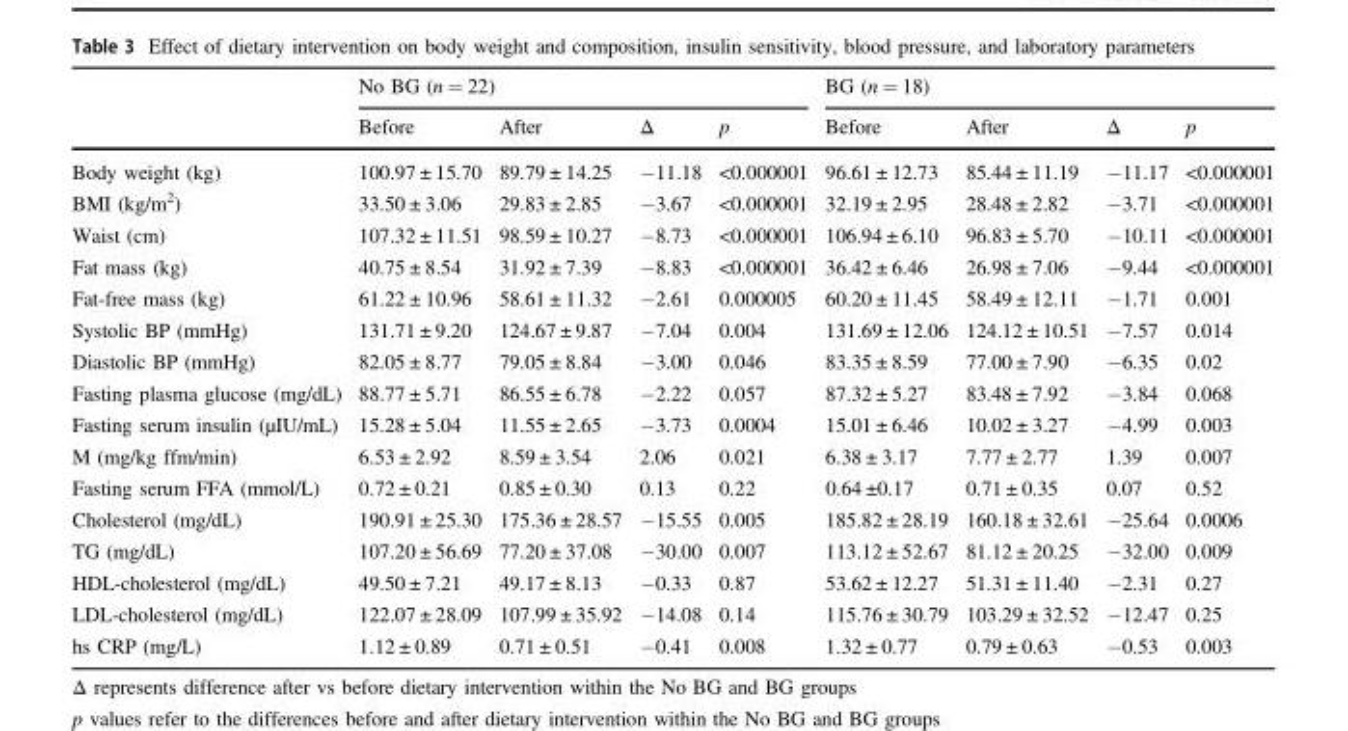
<table><thead><tr><td rowspan="2"></td><td colspan="4">No BG (n = 22)</td><td colspan="4">BG (n = 18)</td></tr><tr><td>Before</td><td>After</td><td>Δ</td><td>p</td><td>Before</td><td>After</td><td>Δ</td><td>p</td></tr></thead><tbody><tr><td>Body weight (kg)</td><td>100.97 ± 15.70</td><td>89.79 ± 14.25</td><td>−11.18</td><td>&lt;0.000001</td><td>96.61 ± 12.73</td><td>85.44 ± 11.19</td><td>−11.17</td><td>&lt;0.000001</td></tr><tr><td>BMI (kg/m<sup>2</sup>)</td><td>33.50 ± 3.06</td><td>29.83 ± 2.85</td><td>−3.67</td><td>&lt;0.000001</td><td>32.19 ± 2.95</td><td>28.48 ± 2.82</td><td>−3.71</td><td>&lt;0.000001</td></tr><tr><td>Waist (cm)</td><td>107.32 ± 11.51</td><td>98.59 ± 10.27</td><td>−8.73</td><td>&lt;0.000001</td><td>106.94 ± 6.10</td><td>96.83 ± 5.70</td><td>−10.11</td><td>&lt;0.000001</td></tr><tr><td>Fat mass (kg)</td><td>40.75 ± 8.54</td><td>31.92 ± 7.39</td><td>−8.83</td><td>&lt;0.000001</td><td>36.42 ± 6.46</td><td>26.98 ± 7.06</td><td>−9.44</td><td>&lt;0.000001</td></tr><tr><td>Fat-free mass (kg)</td><td>61.22 ± 10.96</td><td>58.61 ± 11.32</td><td>−2.61</td><td>0.000005</td><td>60.20 ± 11.45</td><td>58.49 ± 12.11</td><td>−1.71</td><td>0.001</td></tr><tr><td>Systolic BP (mmHg)</td><td>131.71 ± 9.20</td><td>124.67 ± 9.87</td><td>−7.04</td><td>0.004</td><td>131.69 ± 12.06</td><td>124.12 ± 10.51</td><td>−7.57</td><td>0.014</td></tr><tr><td>Diastolic BP (mmHg)</td><td>82.05 ± 8.77</td><td>79.05 ± 8.84</td><td>−3.00</td><td>0.046</td><td>83.35 ± 8.59</td><td>77.00 ± 7.90</td><td>−6.35</td><td>0.02</td></tr><tr><td>Fasting plasma glucose (mg/dL)</td><td>88.77 ± 5.71</td><td>86.55 ± 6.78</td><td>−2.22</td><td>0.057</td><td>87.32 ± 5.27</td><td>83.48 ± 7.92</td><td>−3.84</td><td>0.068</td></tr><tr><td>Fasting serum insulin (μIU/mL)</td><td>15.28 ± 5.04</td><td>11.55 ± 2.65</td><td>−3.73</td><td>0.0004</td><td>15.01 ± 6.46</td><td>10.02 ± 3.27</td><td>−4.99</td><td>0.003</td></tr><tr><td>M (mg/kg ffm/min)</td><td>6.53 ± 2.92</td><td>8.59 ± 3.54</td><td>2.06</td><td>0.021</td><td>6.38 ± 3.17</td><td>7.77 ± 2.77</td><td>1.39</td><td>0.007</td></tr><tr><td>Fasting serum FFA (mmol/L)</td><td>0.72 ± 0.21</td><td>0.85 ± 0.30</td><td>0.13</td><td>0.22</td><td>0.64 ±0.17</td><td>0.71 ± 0.35</td><td>0.07</td><td>0.52</td></tr><tr><td>Cholesterol (mg/dL)</td><td>190.91 ± 25.30</td><td>175.36 ± 28.57</td><td>−15.55</td><td>0.005</td><td>185.82 ± 28.19</td><td>160.18 ± 32.61</td><td>−25.64</td><td>0.0006</td></tr><tr><td>TG (mg/dL)</td><td>107.20 ± 56.69</td><td>77.20 ± 37.08</td><td>−30.00</td><td>0.007</td><td>113.12 ± 52.67</td><td>81.12 ± 20.25</td><td>−32.00</td><td>0.009</td></tr><tr><td>HDL-cholesterol (mg/dL)</td><td>49.50 ± 7.21</td><td>49.17 ± 8.13</td><td>−0.33</td><td>0.87</td><td>53.62 ± 12.27</td><td>51.31 ± 11.40</td><td>−2.31</td><td>0.27</td></tr><tr><td>LDL-cholesterol (mg/dL)</td><td>122.07 ± 28.09</td><td>107.99 ± 35.92</td><td>−14.08</td><td>0.14</td><td>115.76 ± 30.79</td><td>103.29 ± 32.52</td><td>−12.47</td><td>0.25</td></tr><tr><td>hs CRP (mg/L)</td><td>1.12 ± 0.89</td><td>0.71 ± 0.51</td><td>−0.41</td><td>0.008</td><td>1.32 ± 0.77</td><td>0.79 ± 0.63</td><td>−0.53</td><td>0.003</td></tr></tbody></table>